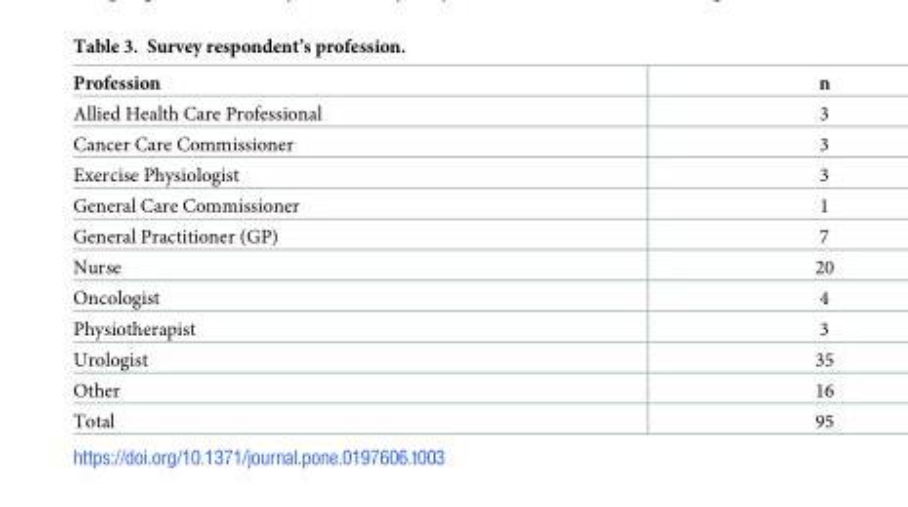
<table><thead><tr><td>Profession</td><td>n</td></tr></thead><tbody><tr><td>Allied Health Care Professional</td><td>3</td></tr><tr><td>Cancer Care Commissioner</td><td>3</td></tr><tr><td>Exercise Physiologist</td><td>3</td></tr><tr><td>General Care Commissioner</td><td>1</td></tr><tr><td>General Practitioner (GP)</td><td>7</td></tr><tr><td>Nurse</td><td>20</td></tr><tr><td>Oncologist</td><td>4</td></tr><tr><td>Physiotherapist</td><td>3</td></tr><tr><td>Urologist</td><td>35</td></tr><tr><td>Other</td><td>16</td></tr><tr><td>Total</td><td>95</td></tr></tbody></table>